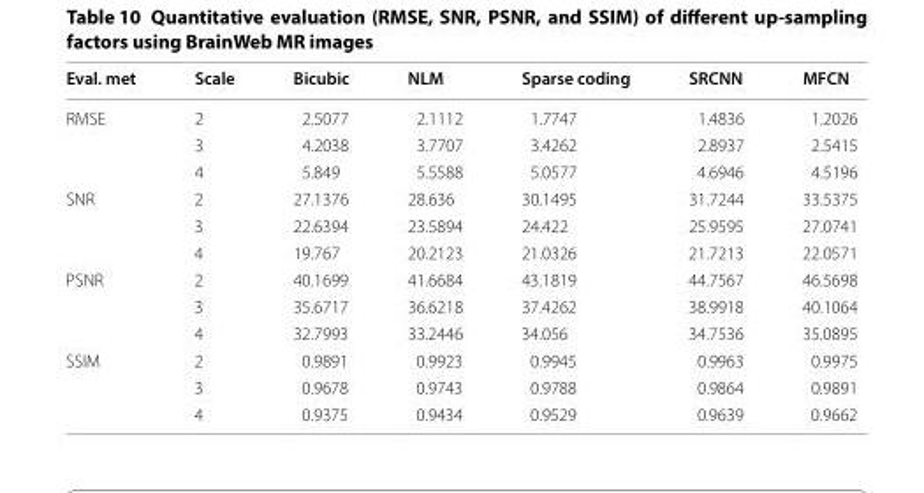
<table><thead><tr><td>Eval. met</td><td>Scale</td><td>Bicubic</td><td>NLM</td><td>Sparse coding</td><td>SRCNN</td><td>MFCN</td></tr></thead><tbody><tr><td rowspan="3">RMSE</td><td>2</td><td>2.5077</td><td>2.1112</td><td>1.7747</td><td>1.4836</td><td>1.2026</td></tr><tr><td>3</td><td>4.2038</td><td>3.7707</td><td>3.4262</td><td>2.8937</td><td>2.5415</td></tr><tr><td>4</td><td>5.849</td><td>5.5588</td><td>5.0577</td><td>4.6946</td><td>4.5196</td></tr><tr><td rowspan="3">SNR</td><td>2</td><td>27.1376</td><td>28.636</td><td>30.1495</td><td>31.7244</td><td>33.5375</td></tr><tr><td>3</td><td>22.6394</td><td>23.5894</td><td>24.422</td><td>25.9595</td><td>27.0741</td></tr><tr><td>4</td><td>19.767</td><td>20.2123</td><td>21.0326</td><td>21.7213</td><td>22.0571</td></tr><tr><td rowspan="3">PSNR</td><td>2</td><td>40.1699</td><td>41.6684</td><td>43.1819</td><td>44.7567</td><td>46.5698</td></tr><tr><td>3</td><td>35.6717</td><td>36.6218</td><td>37.4262</td><td>38.9918</td><td>40.1064</td></tr><tr><td>4</td><td>32.7993</td><td>33.2446</td><td>34.056</td><td>34.7536</td><td>35.0895</td></tr><tr><td rowspan="3">SSIM</td><td>2</td><td>0.9891</td><td>0.9923</td><td>0.9945</td><td>0.9963</td><td>0.9975</td></tr><tr><td>3</td><td>0.9678</td><td>0.9743</td><td>0.9788</td><td>0.9864</td><td>0.9891</td></tr><tr><td>4</td><td>0.9375</td><td>0.9434</td><td>0.9529</td><td>0.9639</td><td>0.9662</td></tr></tbody></table>